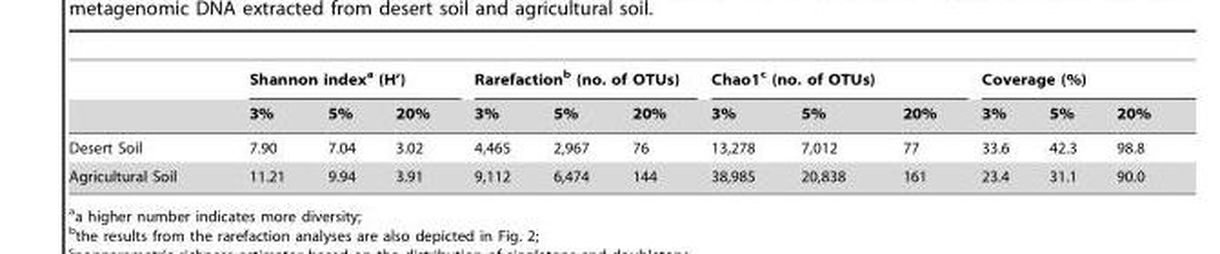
<table><thead><tr><td rowspan="2"></td><td colspan="3">Shannon index<sup>a</sup> (H’)</td><td colspan="3">Rarefaction<sup>b</sup> (no. of OTUs)</td><td colspan="3">Chao1<sup>c</sup> (no. of OTUs)</td><td colspan="3">Coverage (%)</td></tr><tr><td>3%</td><td>5%</td><td>20%</td><td>3%</td><td>5%</td><td>20%</td><td>3%</td><td>5%</td><td>20%</td><td>3%</td><td>5%</td><td>20%</td></tr></thead><tbody><tr><td>Desert Soil</td><td>7.90</td><td>7.04</td><td>3.02</td><td>4,465</td><td>2,967</td><td>76</td><td>13,278</td><td>7,012</td><td>77</td><td>33.6</td><td>42.3</td><td>98.8</td></tr><tr><td>Agricultural Soil</td><td>11.21</td><td>9.94</td><td>3.91</td><td>9,112</td><td>6,474</td><td>144</td><td>38,985</td><td>20,838</td><td>161</td><td>23.4</td><td>31.1</td><td>90.0</td></tr></tbody></table>